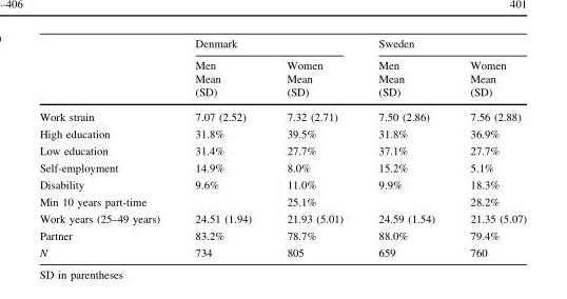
<table><thead><tr><td rowspan="3"></td><td colspan="2">Denmark</td><td colspan="2">Sweden</td></tr><tr><td rowspan="2">Men Mean (SD)</td><td rowspan="2">Women Mean (SD)</td><td rowspan="2">Men Mean (SD)</td><td rowspan="2">Women Mean (SD)</td></tr><tr></tr></thead><tbody><tr><td>Work strain</td><td>7.07 (2.52)</td><td>7.32 (2.71)</td><td>7.50 (2.86)</td><td>7.56 (2.88)</td></tr><tr><td>High education</td><td>31.8%</td><td>39.5%</td><td>31.8%</td><td>36.9%</td></tr><tr><td>Low education</td><td>31.4%</td><td>27.7%</td><td>37.1%</td><td>27.7%</td></tr><tr><td>Self-employment</td><td>14.9%</td><td>8.0%</td><td>15.2%</td><td>5.1%</td></tr><tr><td>Disability</td><td>9.6%</td><td>11.0%</td><td>9.9%</td><td>18.3%</td></tr><tr><td>Min 10 years part-time</td><td></td><td>25.1%</td><td></td><td>28.2%</td></tr><tr><td>Work years (25–49 years)</td><td>24.51 (1.94)</td><td>21.93 (5.01)</td><td>24.59 (1.54)</td><td>21.35 (5.07)</td></tr><tr><td>Partner</td><td>83.2%</td><td>78.7%</td><td>88.0%</td><td>79.4%</td></tr><tr><td>N</td><td>734</td><td>805</td><td>659</td><td>760</td></tr></tbody></table>